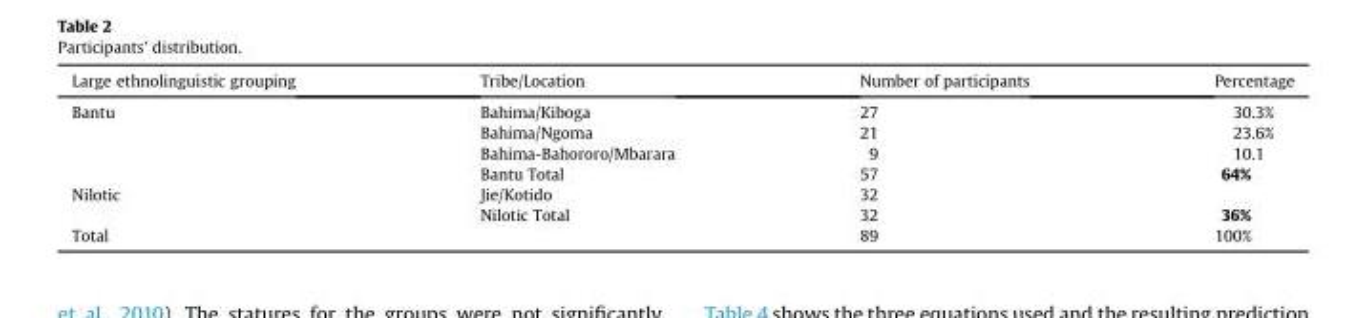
<table><thead><tr><td>Large ethnolinguistic grouping</td><td>Tribe/Location</td><td>Number of participants</td><td>Percentage</td></tr></thead><tbody><tr><td rowspan="4">Bantu</td><td>Bahima/Kiboga</td><td>27</td><td>30.3%</td></tr><tr><td>Bahima/Ngoma</td><td>21</td><td>23.6%</td></tr><tr><td>Bahima-Bahororo/Mbarara</td><td>9</td><td>10.1</td></tr><tr><td>Bantu Total</td><td>57</td><td>64%</td></tr><tr><td rowspan="2">Nilotic</td><td>Jie/Kotido</td><td>32</td><td></td></tr><tr><td>Nilotic Total</td><td>32</td><td>36%</td></tr><tr><td>Total</td><td></td><td>89</td><td>100%</td></tr></tbody></table>